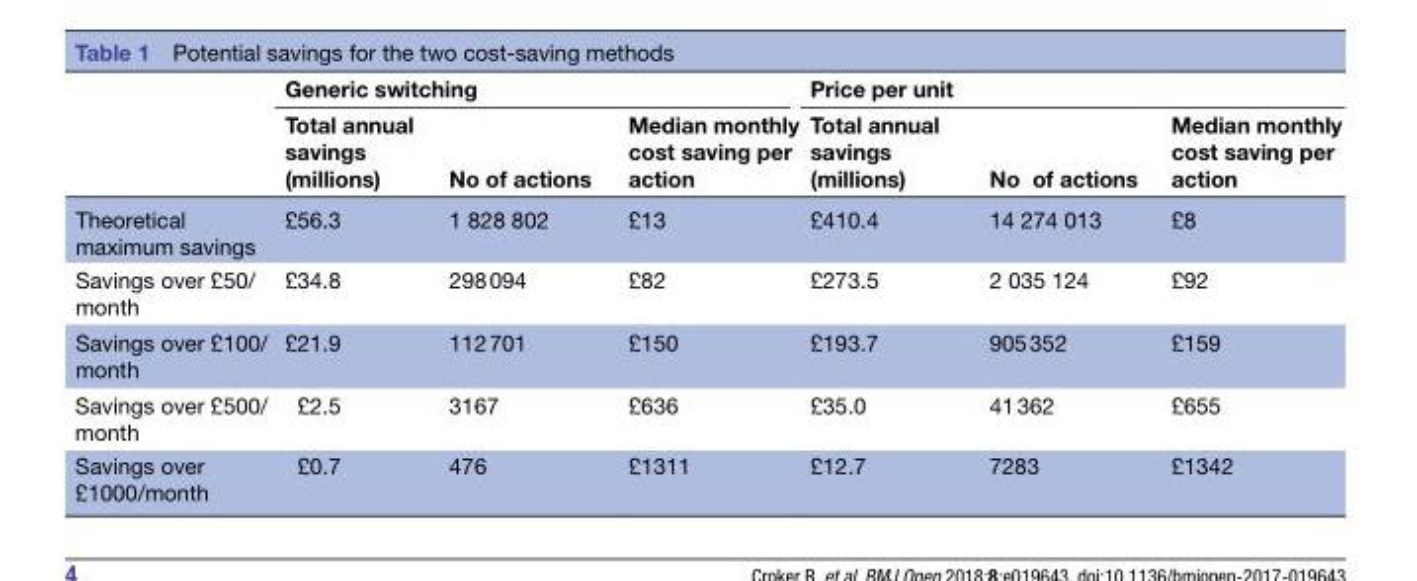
<table><thead><tr><td rowspan="2"></td><td colspan="3">Generic switching</td><td colspan="3">Price per unit</td></tr><tr><td>Total annual savings (millions)</td><td>No of actions</td><td>Median monthly cost saving per action</td><td>Total annual savings (millions)</td><td>No of actions</td><td>Median monthly cost saving per action</td></tr></thead><tbody><tr><td>Theoretical maximum savings</td><td>£56.3</td><td>1 828 802</td><td>£13</td><td>£410.4</td><td>14 274 013</td><td>£8</td></tr><tr><td>Savings over £50/ month</td><td>£34.8</td><td>298 094</td><td>£82</td><td>£273.5</td><td>2 035 124</td><td>£92</td></tr><tr><td>Savings over £100/ month</td><td>£21.9</td><td>112 701</td><td>£150</td><td>£193.7</td><td>905 352</td><td>£159</td></tr><tr><td>Savings over £500/ month</td><td>£2.5</td><td>3167</td><td>£636</td><td>£35.0</td><td>41 362</td><td>£655</td></tr><tr><td>Savings over £1000/month</td><td>£0.7</td><td>476</td><td>£1311</td><td>£12.7</td><td>7283</td><td>£1342</td></tr></tbody></table>